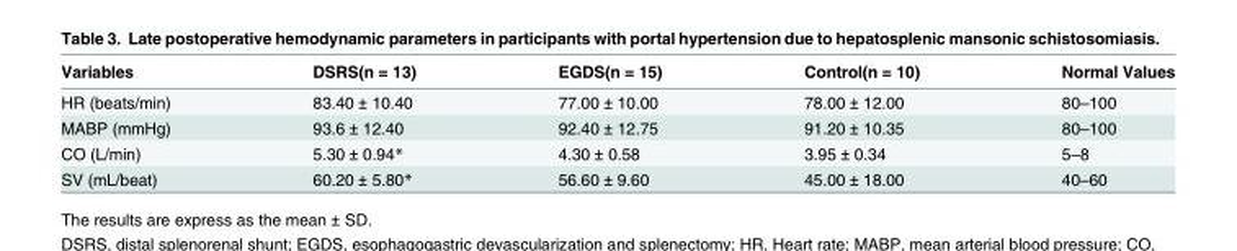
<table><thead><tr><td>Variables</td><td>DSRS(n = 13)</td><td>EGDS(n = 15)</td><td>Control(n = 10)</td><td>Normal Values</td></tr></thead><tbody><tr><td>HR (beats/min)</td><td>83.40 ± 10.40</td><td>77.00 ± 10.00</td><td>78.00 ± 12.00</td><td>80–100</td></tr><tr><td>MABP (mmHg)</td><td>93.6 ± 12.40</td><td>92.40 ± 12.75</td><td>91.20 ± 10.35</td><td>80–100</td></tr><tr><td>CO (L/min)</td><td>5.30 ± 0.94*</td><td>4.30 ± 0.58</td><td>3.95 ± 0.34</td><td>5–8</td></tr><tr><td>SV (mL/beat)</td><td>60.20 ± 5.80*</td><td>56.60 ± 9.60</td><td>45.00 ± 18.00</td><td>40–60</td></tr></tbody></table>